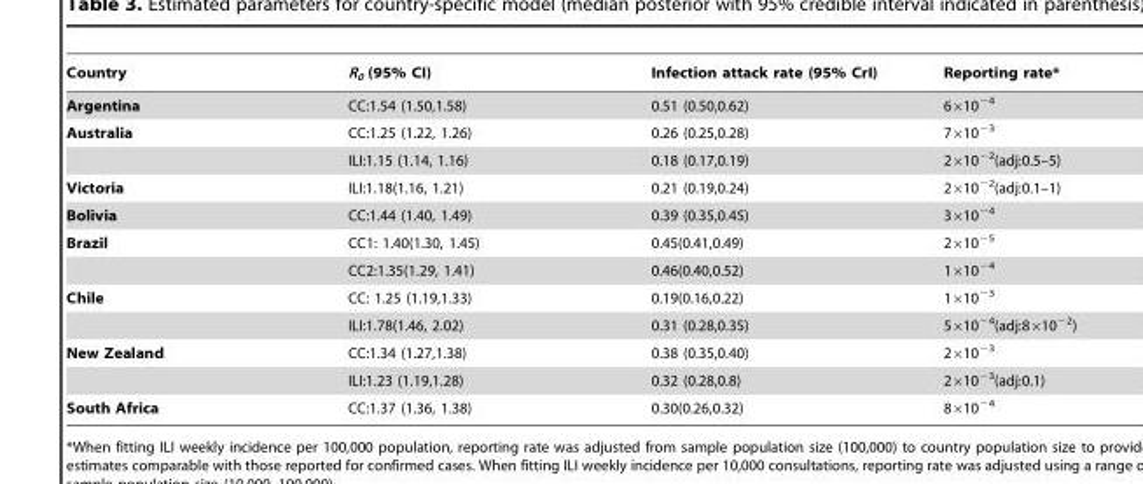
<table><thead><tr><td>Country</td><td>R<sub>0</sub> (95% CI)</td><td>Infection attack rate (95% CrI)</td><td>Reporting rate*</td></tr></thead><tbody><tr><td>Argentina</td><td>CC:1.54 (1.50,1.58)</td><td>0.51 (0.50,0.62)</td><td>6×10<sup>−4</sup></td></tr><tr><td rowspan="2">Australia</td><td>CC:1.25 (1.22, 1.26)</td><td>0.26 (0.25,0.28)</td><td>7×10<sup>−3</sup></td></tr><tr><td>ILI:1.15 (1.14, 1.16)</td><td>0.18 (0.17,0.19)</td><td>2×10<sup>−2</sup>(adj:0.5–5)</td></tr><tr><td>Victoria</td><td>ILI:1.18(1.16, 1.21)</td><td>0.21 (0.19,0.24)</td><td>2×10<sup>−2</sup>(adj:0.1–1)</td></tr><tr><td>Bolivia</td><td>CC:1.44 (1.40, 1.49)</td><td>0.39 (0.35,0.45)</td><td>3×10<sup>−4</sup></td></tr><tr><td rowspan="2">Brazil</td><td>CC1: 1.40(1.30, 1.45)</td><td>0.45(0.41,0.49)</td><td>2×10<sup>−5</sup></td></tr><tr><td>CC2:1.35(1.29, 1.41)</td><td>0.46(0.40,0.52)</td><td>1×10<sup>−4</sup></td></tr><tr><td rowspan="2">Chile</td><td>CC: 1.25 (1.19,1.33)</td><td>0.19(0.16,0.22)</td><td>1×10<sup>−3</sup></td></tr><tr><td>ILI:1.78(1.46, 2.02)</td><td>0.31 (0.28,0.35)</td><td>5×10<sup>−4</sup>(adj:8×10<sup>−2</sup>)</td></tr><tr><td rowspan="2">New Zealand</td><td>CC:1.34 (1.27,1.38)</td><td>0.38 (0.35,0.40)</td><td>2×10<sup>−3</sup></td></tr><tr><td>ILI:1.23 (1.19,1.28)</td><td>0.32 (0.28,0.8)</td><td>2×10<sup>−3</sup>(adj:0.1)</td></tr><tr><td>South Africa</td><td>CC:1.37 (1.36, 1.38)</td><td>0.30(0.26,0.32)</td><td>8×10<sup>−4</sup></td></tr></tbody></table>